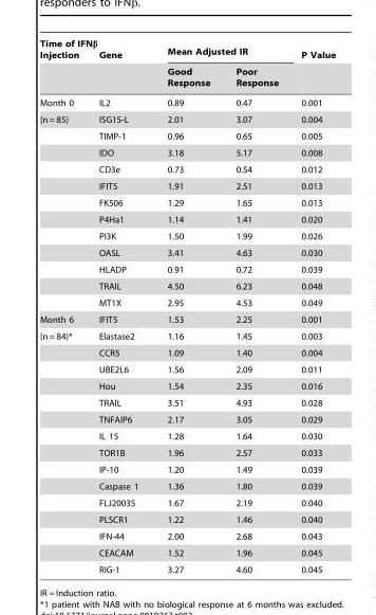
<table><thead><tr><td rowspan="2">Time of IFNβ Injection</td><td rowspan="2">Gene</td><td colspan="2">Mean Adjusted IR</td><td rowspan="2">P Value</td></tr><tr><td>Good Response</td><td>Poor Response</td></tr></thead><tbody><tr><td>Month 0</td><td>IL2</td><td>0.89</td><td>0.47</td><td>0.001</td></tr><tr><td rowspan="12">(n = 85)</td><td>ISG15-L</td><td>2.01</td><td>3.07</td><td>0.004</td></tr><tr><td>TIMP-1</td><td>0.96</td><td>0.65</td><td>0.005</td></tr><tr><td>IDO</td><td>3.18</td><td>5.17</td><td>0.008</td></tr><tr><td>CD3e</td><td>0.73</td><td>0.54</td><td>0.012</td></tr><tr><td>IFIT5</td><td>1.91</td><td>2.51</td><td>0.013</td></tr><tr><td>FK506</td><td>1.29</td><td>1.65</td><td>0.013</td></tr><tr><td>P4Ha1</td><td>1.14</td><td>1.41</td><td>0.020</td></tr><tr><td>PI3K</td><td>1.50</td><td>1.99</td><td>0.026</td></tr><tr><td>OASL</td><td>3.41</td><td>4.63</td><td>0.030</td></tr><tr><td>HLADP</td><td>0.91</td><td>0.72</td><td>0.039</td></tr><tr><td>TRAIL</td><td>4.50</td><td>6.23</td><td>0.048</td></tr><tr><td>MT1X</td><td>2.95</td><td>4.53</td><td>0.049</td></tr><tr><td>Month 6</td><td>IFIT5</td><td>1.53</td><td>2.25</td><td>0.001</td></tr><tr><td rowspan="15">(n = 84)*</td><td>Elastase2</td><td>1.16</td><td>1.45</td><td>0.003</td></tr><tr><td>CCR5</td><td>1.09</td><td>1.40</td><td>0.004</td></tr><tr><td>UBE2L6</td><td>1.56</td><td>2.09</td><td>0.011</td></tr><tr><td>Hou</td><td>1.54</td><td>2.35</td><td>0.016</td></tr><tr><td>TRAIL</td><td>3.51</td><td>4.93</td><td>0.028</td></tr><tr><td>TNFAIP6</td><td>2.17</td><td>3.05</td><td>0.029</td></tr><tr><td>IL 15</td><td>1.28</td><td>1.64</td><td>0.030</td></tr><tr><td>TOR1B</td><td>1.96</td><td>2.57</td><td>0.033</td></tr><tr><td>IP-10</td><td>1.20</td><td>1.49</td><td>0.039</td></tr><tr><td>Caspase 1</td><td>1.36</td><td>1.80</td><td>0.039</td></tr><tr><td>FLJ20035</td><td>1.67</td><td>2.19</td><td>0.040</td></tr><tr><td>PLSCR1</td><td>1.22</td><td>1.46</td><td>0.040</td></tr><tr><td>IFN-44</td><td>2.00</td><td>2.68</td><td>0.043</td></tr><tr><td>CEACAM</td><td>1.52</td><td>1.96</td><td>0.045</td></tr><tr><td>RIG-1</td><td>3.27</td><td>4.60</td><td>0.045</td></tr></tbody></table>